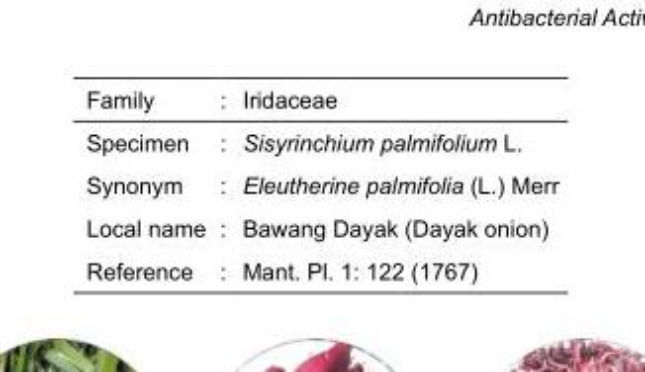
<table><thead><tr><td>Family</td><td>:</td><td>Iridaceae</td></tr></thead><tbody><tr><td>Specimen</td><td>:</td><td>Sisyrinchium palmifolium L.</td></tr><tr><td>Synonym</td><td>:</td><td>Eleutherine palmifolia (L.) Merr</td></tr><tr><td>Local name</td><td>:</td><td>Bawang Dayak (Dayak onion)</td></tr><tr><td>Reference</td><td>:</td><td>Mant. Pl. 1: 122 (1767)</td></tr></tbody></table>